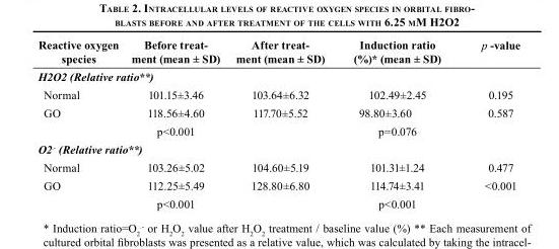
<table><thead><tr><td>Reactive oxygen species</td><td>Before treat- ment (mean ± SD)</td><td>After treat- ment (mean ± SD)</td><td>Induction ratio (%)* (mean ± SD)</td><td>p -value</td></tr></thead><tbody><tr><td colspan="5">H<sub>2</sub>O<sub>2</sub> (Relative ratio**)</td></tr><tr><td>Normal</td><td>101.15±3.46</td><td>103.64±6.32</td><td>102.49±2.45</td><td>0.195</td></tr><tr><td rowspan="2">GO</td><td>118.56±4.60</td><td>117.70±5.52</td><td>98.80±3.60</td><td>0.587</td></tr><tr><td>p&lt;0.001</td><td></td><td>p=0.076</td><td></td></tr><tr><td colspan="5">O<sub>2</sub><sup>.-</sup> (Relative ratio**)</td></tr><tr><td>Normal</td><td>103.26±5.02</td><td>104.60±5.19</td><td>101.31±1.24</td><td>0.477</td></tr><tr><td rowspan="2">GO</td><td>112.25±5.49</td><td>128.80±6.80</td><td>114.74±3.41</td><td>&lt;0.001</td></tr><tr><td>p&lt;0.001</td><td></td><td>p&lt;0.001</td><td></td></tr></tbody></table>